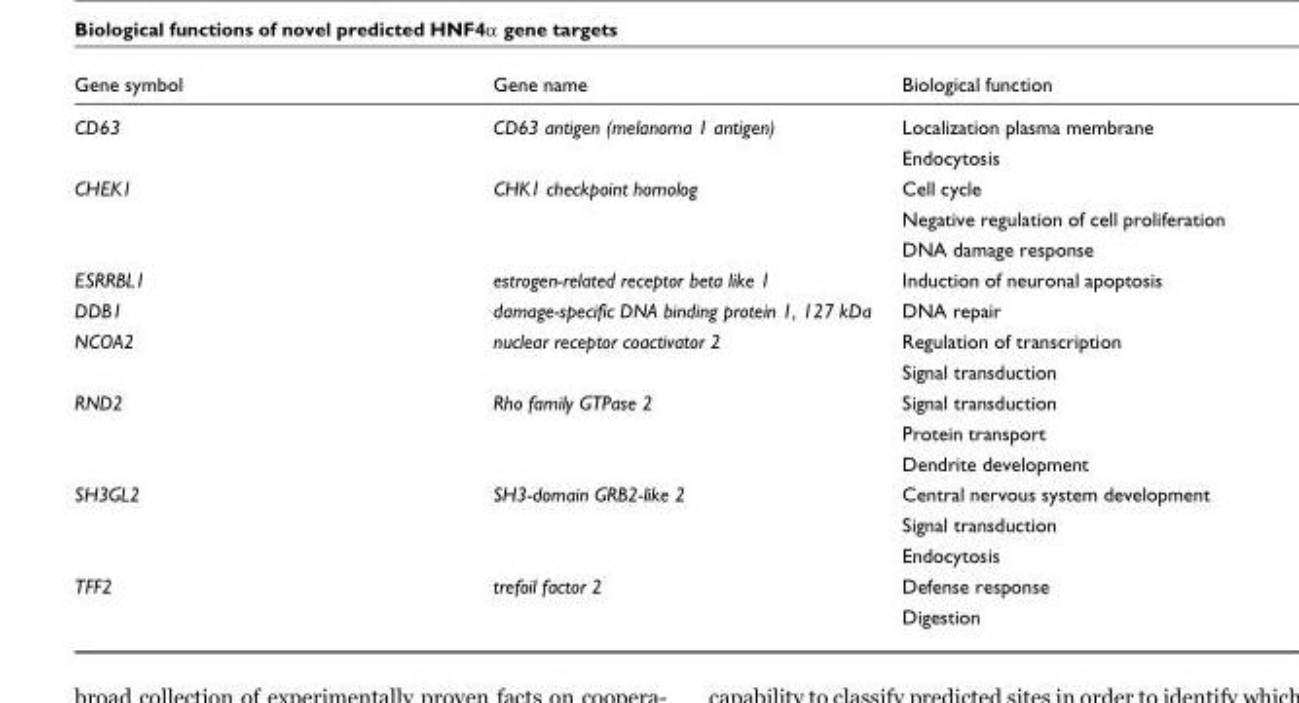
<table><thead><tr><td>Gene symbol</td><td>Gene name</td><td>Biological function</td></tr></thead><tbody><tr><td rowspan="2">CD63</td><td>CD63 antigen (melanoma 1 antigen)</td><td>Localization plasma membrane</td></tr><tr><td></td><td>Endocytosis</td></tr><tr><td rowspan="3">CHEK1</td><td>CHK1 checkpoint homolog</td><td>Cell cycle</td></tr><tr><td></td><td>Negative regulation of cell proliferation</td></tr><tr><td></td><td>DNA damage response</td></tr><tr><td>ESRRBL1</td><td>estrogen-related receptor beta like 1</td><td>Induction of neuronal apoptosis</td></tr><tr><td>DDB1</td><td>damage-specific DNA binding protein 1, 127 kDa</td><td>DNA repair</td></tr><tr><td rowspan="2">NCOA2</td><td>nuclear receptor coactivator 2</td><td>Regulation of transcription</td></tr><tr><td></td><td>Signal transduction</td></tr><tr><td rowspan="3">RND2</td><td>Rho family GTPase 2</td><td>Signal transduction</td></tr><tr><td></td><td>Protein transport</td></tr><tr><td></td><td>Dendrite development</td></tr><tr><td rowspan="3">SH3GL2</td><td>SH3-domain GRB2-like 2</td><td>Central nervous system development</td></tr><tr><td></td><td>Signal transduction</td></tr><tr><td></td><td>Endocytosis</td></tr><tr><td rowspan="2">TFF2</td><td>trefoil factor 2</td><td>Defense response</td></tr><tr><td></td><td>Digestion</td></tr></tbody></table>